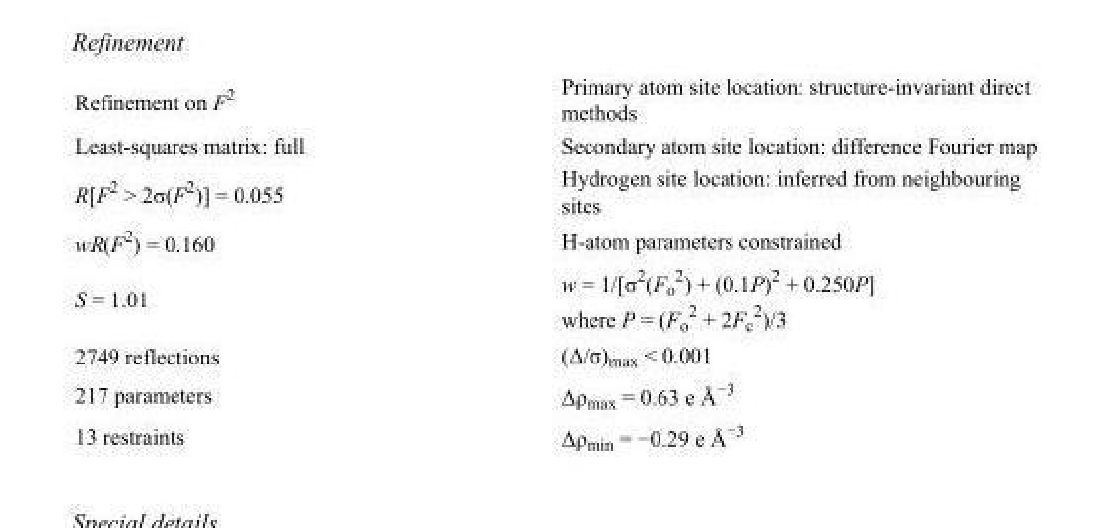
<table><tbody><tr><td>Refinement on F<sup>2</sup></td><td>Primary atom site location: structure-invariant direct methods</td></tr><tr><td>Least-squares matrix: full</td><td>Secondary atom site location: difference Fourier map</td></tr><tr><td>R[F<sup>2</sup> &gt; 2σ(F<sup>2</sup>)] = 0.055</td><td>Hydrogen site location: inferred from neighbouring sites</td></tr><tr><td>wR(F<sup>2</sup>) = 0.160</td><td>H-atom parameters constrained</td></tr><tr><td>S = 1.01</td><td>w = 1/[σ<sup>2</sup>(F<sub>o</sub> <sup>2</sup>) + (0.1P)<sup>2</sup> + 0.250P] where P = (F<sub>o</sub> <sup>2</sup> + 2F<sub>c</sub> <sup>2</sup>)/3</td></tr><tr><td>2749 reflections</td><td>(Δ/σ)<sub>max</sub> &lt; 0.001</td></tr><tr><td>217 parameters</td><td>Δρ<sub>max</sub> = 0.63 e Å<sup>−3</sup></td></tr><tr><td>13 restraints</td><td>Δρ<sub>min</sub> = −0.29 e Å<sup>−3</sup></td></tr></tbody></table>